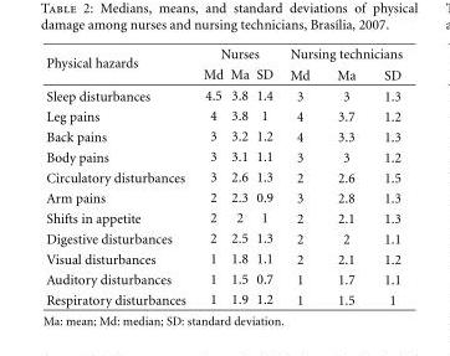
<table><thead><tr><td rowspan="2">Physical hazards</td><td colspan="3">Nurses</td><td colspan="3">Nursing technicians</td></tr><tr><td>Md</td><td>Ma</td><td>SD</td><td>Md</td><td>Ma</td><td>SD</td></tr></thead><tbody><tr><td>Sleep disturbances</td><td>4.5</td><td>3.8</td><td>1.4</td><td>3</td><td>3</td><td>1.3</td></tr><tr><td>Leg pains</td><td>4</td><td>3.8</td><td>1</td><td>4</td><td>3.7</td><td>1.2</td></tr><tr><td>Back pains</td><td>3</td><td>3.2</td><td>1.2</td><td>4</td><td>3.3</td><td>1.3</td></tr><tr><td>Body pains</td><td>3</td><td>3.1</td><td>1.1</td><td>3</td><td>3</td><td>1.2</td></tr><tr><td>Circulatory disturbances</td><td>3</td><td>2.6</td><td>1.3</td><td>2</td><td>2.6</td><td>1.5</td></tr><tr><td>Arm pains</td><td>2</td><td>2.3</td><td>0.9</td><td>3</td><td>2.8</td><td>1.3</td></tr><tr><td>Shifts in appetite</td><td>2</td><td>2</td><td>1</td><td>2</td><td>2.1</td><td>1.3</td></tr><tr><td>Digestive disturbances</td><td>2</td><td>2.5</td><td>1.3</td><td>2</td><td>2</td><td>1.1</td></tr><tr><td>Visual disturbances</td><td>1</td><td>1.8</td><td>1.1</td><td>2</td><td>2.1</td><td>1.2</td></tr><tr><td>Auditory disturbances</td><td>1</td><td>1.5</td><td>0.7</td><td>1</td><td>1.7</td><td>1.1</td></tr><tr><td>Respiratory disturbances</td><td>1</td><td>1.9</td><td>1.2</td><td>1</td><td>1.5</td><td>1</td></tr></tbody></table>